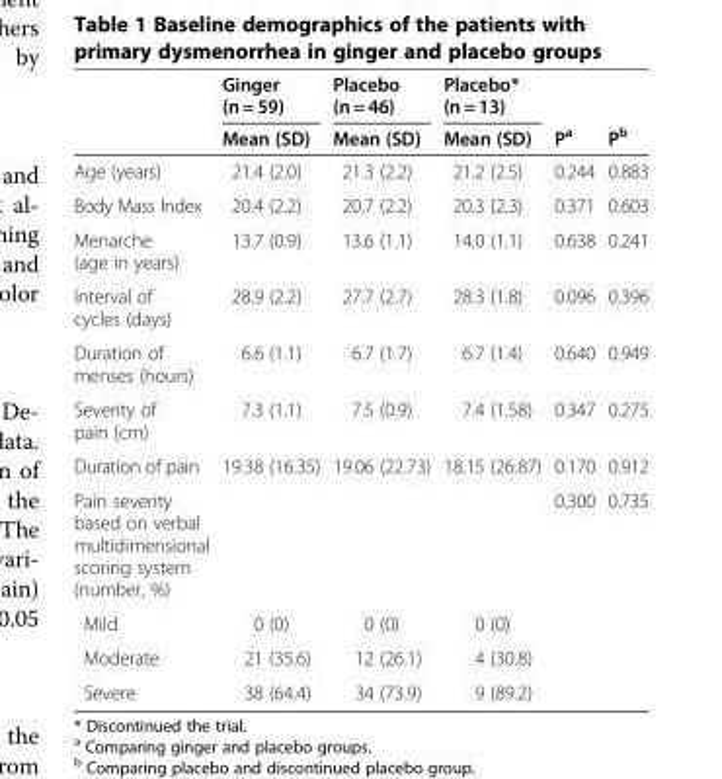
<table><thead><tr><td rowspan="2"></td><td rowspan="2">Ginger (n = 59) Mean (SD)</td><td rowspan="2">Placebo (n = 46) Mean (SD)</td><td rowspan="2">Placebo* (n = 13) Mean (SD)</td><td rowspan="2">P<sup>a</sup></td><td rowspan="2">P<sup>b</sup></td></tr><tr></tr></thead><tbody><tr><td>Age (years)</td><td>21.4 (2.0)</td><td>21.3 (2.2)</td><td>21.2 (2.5)</td><td>0.244</td><td>0.883</td></tr><tr><td>Body Mass Index</td><td>20.4 (2.2)</td><td>20.7 (2.2)</td><td>20.3 (2.3)</td><td>0.371</td><td>0.603</td></tr><tr><td>Menarche (age in years)</td><td>13.7 (0.9)</td><td>13.6 (1.1)</td><td>14.0 (1.1)</td><td>0.638</td><td>0.241</td></tr><tr><td>Interval of cycles (days)</td><td>28.9 (2.2)</td><td>27.7 (2.7)</td><td>28.3 (1.8)</td><td>0.096</td><td>0.396</td></tr><tr><td>Duration of menses (hours)</td><td>6.6 (1.1)</td><td>6.7 (1.7)</td><td>6.7 (1.4)</td><td>0.640</td><td>0.949</td></tr><tr><td>Severity of pain (cm)</td><td>7.3 (1.1)</td><td>7.5 (0.9)</td><td>7.4 (1.58)</td><td>0.347</td><td>0.275</td></tr><tr><td>Duration of pain</td><td>19.38 (16.35)</td><td>19.06 (22.73)</td><td>18.15 (26.87)</td><td>0.170</td><td>0.912</td></tr><tr><td>Pain severity based on verbal multidimensional scoring system (number, %)</td><td></td><td></td><td></td><td>0.300</td><td>0.735</td></tr><tr><td>Mild</td><td>0 (0)</td><td>0 (0)</td><td>0 (0)</td><td></td><td></td></tr><tr><td>Moderate</td><td>21 (35.6)</td><td>12 (26.1)</td><td>4 (30.8)</td><td></td><td></td></tr><tr><td>Severe</td><td>38 (64.4)</td><td>34 (73.9)</td><td>9 (89.2)</td><td></td><td></td></tr></tbody></table>